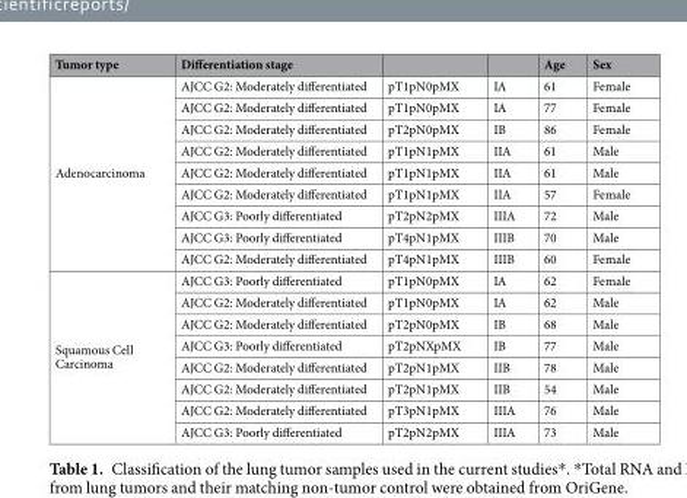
<table><thead><tr><td>Tumor type</td><td>Differentiation stage</td><td></td><td></td><td>Age</td><td>Sex</td></tr></thead><tbody><tr><td rowspan="9">Adenocarcinoma</td><td>AJCC G2: Moderately differentiated</td><td>pT1pN0pMX</td><td>IA</td><td>61</td><td>Female</td></tr><tr><td>AJCC G2: Moderately differentiated</td><td>pT1pN0pMX</td><td>IA</td><td>77</td><td>Female</td></tr><tr><td>AJCC G2: Moderately differentiated</td><td>pT2pN0pMX</td><td>IB</td><td>86</td><td>Female</td></tr><tr><td>AJCC G2: Moderately differentiated</td><td>pT1pN1pMX</td><td>IIA</td><td>61</td><td>Male</td></tr><tr><td>AJCC G2: Moderately differentiated</td><td>pT1pN1pMX</td><td>IIA</td><td>61</td><td>Male</td></tr><tr><td>AJCC G2: Moderately differentiated</td><td>pT1pN1pMX</td><td>IIA</td><td>57</td><td>Female</td></tr><tr><td>AJCC G3: Poorly differentiated</td><td>pT2pN2pMX</td><td>IIIA</td><td>72</td><td>Male</td></tr><tr><td>AJCC G3: Poorly differentiated</td><td>pT4pN1pMX</td><td>IIIB</td><td>70</td><td>Male</td></tr><tr><td>AJCC G2: Moderately differentiated</td><td>pT4pN1pMX</td><td>IIIB</td><td>60</td><td>Female</td></tr><tr><td rowspan="8">Squamous Cell Carcinoma</td><td>AJCC G3: Poorly differentiated</td><td>pT1pN0pMX</td><td>IA</td><td>62</td><td>Female</td></tr><tr><td>AJCC G2: Moderately differentiated</td><td>pT1pN0pMX</td><td>IA</td><td>62</td><td>Male</td></tr><tr><td>AJCC G2: Moderately differentiated</td><td>pT2pN0pMX</td><td>IB</td><td>68</td><td>Male</td></tr><tr><td>AJCC G3: Poorly differentiated</td><td>pT2pNXpMX</td><td>IB</td><td>77</td><td>Male</td></tr><tr><td>AJCC G2: Moderately differentiated</td><td>pT2pN1pMX</td><td>IIB</td><td>78</td><td>Male</td></tr><tr><td>AJCC G2: Moderately differentiated</td><td>pT2pN1pMX</td><td>IIB</td><td>54</td><td>Male</td></tr><tr><td>AJCC G2: Moderately differentiated</td><td>pT3pN1pMX</td><td>IIIA</td><td>76</td><td>Male</td></tr><tr><td>AJCC G3: Poorly differentiated</td><td>pT2pN2pMX</td><td>IIIA</td><td>73</td><td>Male</td></tr></tbody></table>